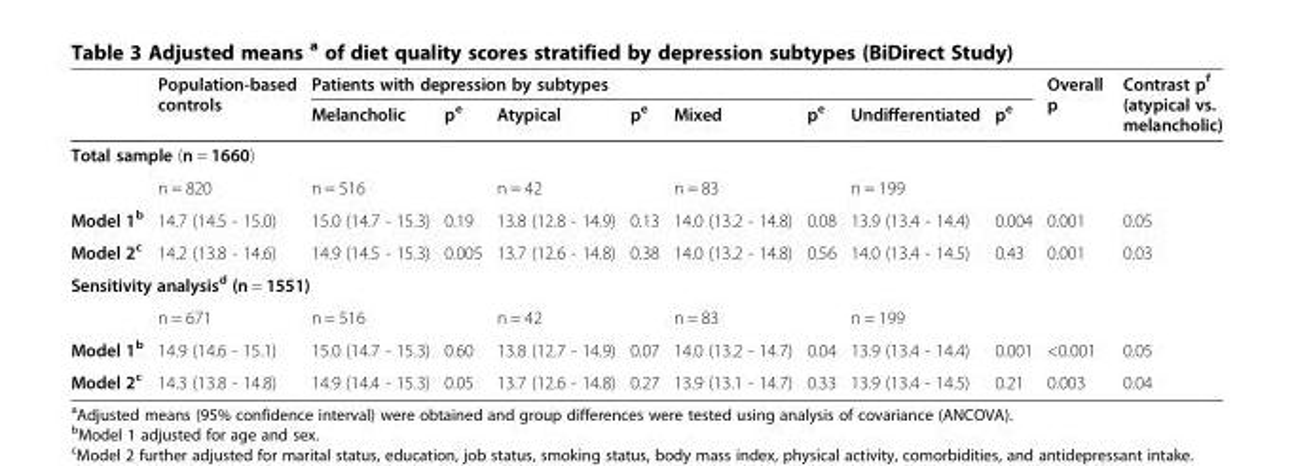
<table><thead><tr><td rowspan="2"></td><td rowspan="2">Population-based controls</td><td colspan="8">Patients with depression by subtypes</td><td rowspan="2">Overall p</td><td rowspan="2">Contrast p<sup>f</sup> (atypical vs. melancholic)</td></tr><tr><td>Melancholic</td><td>p<sup>e</sup></td><td>Atypical</td><td>p<sup>e</sup></td><td>Mixed</td><td>p<sup>e</sup></td><td>Undifferentiated</td><td>p<sup>e</sup></td></tr></thead><tbody><tr><td colspan="12">Total sample (n = 1660)</td></tr><tr><td></td><td>n = 820</td><td>n = 516</td><td></td><td>n = 42</td><td></td><td>n = 83</td><td></td><td>n = 199</td><td></td><td></td><td></td></tr><tr><td>Model 1<sup>b</sup></td><td>14.7 (14.5 - 15.0)</td><td>15.0 (14.7 - 15.3)</td><td>0.19</td><td>13.8 (12.8 - 14.9)</td><td>0.13</td><td>14.0 (13.2 - 14.8)</td><td>0.08</td><td>13.9 (13.4 - 14.4)</td><td>0.004</td><td>0.001</td><td>0.05</td></tr><tr><td>Model 2<sup>c</sup></td><td>14.2 (13.8 - 14.6)</td><td>14.9 (14.5 - 15.3)</td><td>0.005</td><td>13.7 (12.6 - 14.8)</td><td>0.38</td><td>14.0 (13.2 - 14.8)</td><td>0.56</td><td>14.0 (13.4 - 14.5)</td><td>0.43</td><td>0.001</td><td>0.03</td></tr><tr><td colspan="12">Sensitivity analysis<sup>d</sup> (n = 1551)</td></tr><tr><td></td><td>n = 671</td><td>n = 516</td><td></td><td>n = 42</td><td></td><td>n = 83</td><td></td><td>n = 199</td><td></td><td></td><td></td></tr><tr><td>Model 1<sup>b</sup></td><td>14.9 (14.6 - 15.1)</td><td>15.0 (14.7 - 15.3)</td><td>0.60</td><td>13.8 (12.7 - 14.9)</td><td>0.07</td><td>14.0 (13.2 - 14.7)</td><td>0.04</td><td>13.9 (13.4 - 14.4)</td><td>0.001</td><td>&lt;0.001</td><td>0.05</td></tr><tr><td>Model 2<sup>c</sup></td><td>14.3 (13.8 - 14.8)</td><td>14.9 (14.4 - 15.3)</td><td>0.05</td><td>13.7 (12.6 - 14.8)</td><td>0.27</td><td>13.9 (13.1 - 14.7)</td><td>0.33</td><td>13.9 (13.4 - 14.5)</td><td>0.21</td><td>0.003</td><td>0.04</td></tr></tbody></table>